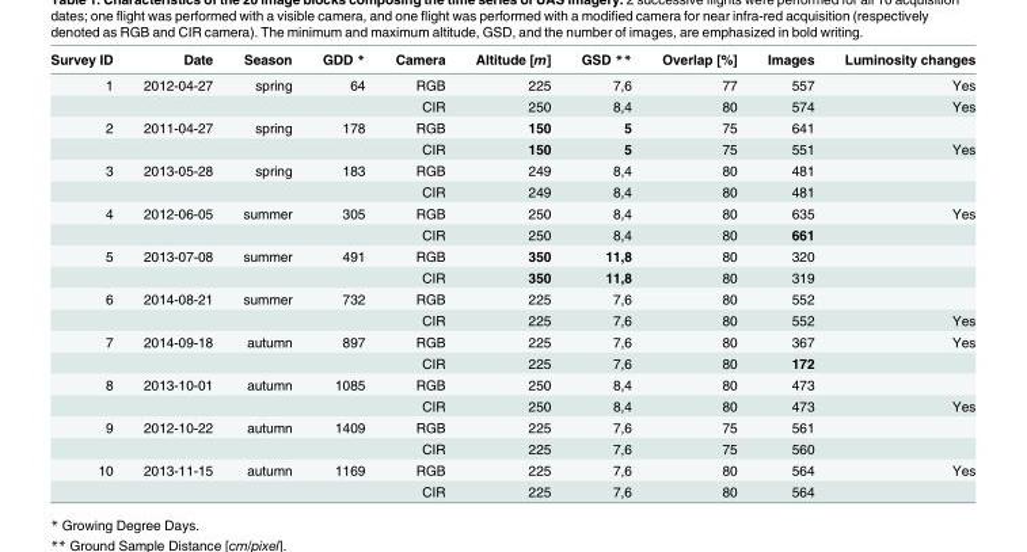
<table><thead><tr><td>Survey ID</td><td>Date</td><td>Season</td><td>GDD *</td><td>Camera</td><td>Altitude [m]</td><td>GSD **</td><td>Overlap [%]</td><td>Images</td><td>Luminosity changes</td></tr></thead><tbody><tr><td rowspan="2">1</td><td>2012-04-27</td><td>spring</td><td>64</td><td>RGB</td><td>225</td><td>7,6</td><td>77</td><td>557</td><td>Yes</td></tr><tr><td></td><td></td><td></td><td>CIR</td><td>250</td><td>8,4</td><td>80</td><td>574</td><td>Yes</td></tr><tr><td rowspan="2">2</td><td>2011-04-27</td><td>spring</td><td>178</td><td>RGB</td><td>150</td><td>5</td><td>75</td><td>641</td><td></td></tr><tr><td></td><td></td><td></td><td>CIR</td><td>150</td><td>5</td><td>75</td><td>551</td><td>Yes</td></tr><tr><td rowspan="2">3</td><td>2013-05-28</td><td>spring</td><td>183</td><td>RGB</td><td>249</td><td>8,4</td><td>80</td><td>481</td><td></td></tr><tr><td></td><td></td><td></td><td>CIR</td><td>249</td><td>8,4</td><td>80</td><td>481</td><td></td></tr><tr><td rowspan="2">4</td><td>2012-06-05</td><td>summer</td><td>305</td><td>RGB</td><td>250</td><td>8,4</td><td>80</td><td>635</td><td>Yes</td></tr><tr><td></td><td></td><td></td><td>CIR</td><td>250</td><td>8,4</td><td>80</td><td>661</td><td></td></tr><tr><td rowspan="2">5</td><td>2013-07-08</td><td>summer</td><td>491</td><td>RGB</td><td>350</td><td>11,8</td><td>80</td><td>320</td><td></td></tr><tr><td></td><td></td><td></td><td>CIR</td><td>350</td><td>11,8</td><td>80</td><td>319</td><td></td></tr><tr><td rowspan="2">6</td><td>2014-08-21</td><td>summer</td><td>732</td><td>RGB</td><td>225</td><td>7,6</td><td>80</td><td>552</td><td></td></tr><tr><td></td><td></td><td></td><td>CIR</td><td>225</td><td>7,6</td><td>80</td><td>552</td><td>Yes</td></tr><tr><td rowspan="2">7</td><td>2014-09-18</td><td>autumn</td><td>897</td><td>RGB</td><td>225</td><td>7,6</td><td>80</td><td>367</td><td>Yes</td></tr><tr><td></td><td></td><td></td><td>CIR</td><td>225</td><td>7,6</td><td>80</td><td>172</td><td></td></tr><tr><td rowspan="2">8</td><td>2013-10-01</td><td>autumn</td><td>1085</td><td>RGB</td><td>250</td><td>8,4</td><td>80</td><td>473</td><td></td></tr><tr><td></td><td></td><td></td><td>CIR</td><td>250</td><td>8,4</td><td>80</td><td>473</td><td>Yes</td></tr><tr><td rowspan="2">9</td><td>2012-10-22</td><td>autumn</td><td>1409</td><td>RGB</td><td>225</td><td>7,6</td><td>75</td><td>561</td><td></td></tr><tr><td></td><td></td><td></td><td>CIR</td><td>225</td><td>7,6</td><td>75</td><td>560</td><td></td></tr><tr><td rowspan="2">10</td><td>2013-11-15</td><td>autumn</td><td>1169</td><td>RGB</td><td>225</td><td>7,6</td><td>80</td><td>564</td><td>Yes</td></tr><tr><td></td><td></td><td></td><td>CIR</td><td>225</td><td>7,6</td><td>80</td><td>564</td><td></td></tr></tbody></table>